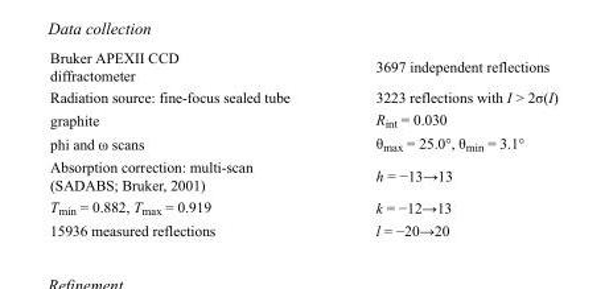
<table><tbody><tr><td>Bruker APEXII CCD diffractometer</td><td>3697 independent reflections</td></tr><tr><td>Radiation source: fine-focus sealed tube</td><td>3223 reflections with I &gt; 2σ(I)</td></tr><tr><td>graphite</td><td>R<sub>int</sub> = 0.030</td></tr><tr><td>phi and ω scans</td><td>θ<sub>max</sub> = 25.0°, θ<sub>min</sub> = 3.1°</td></tr><tr><td>Absorption correction: multi-scan (SADABS; Bruker, 2001)</td><td>h = −13→13</td></tr><tr><td>T<sub>min</sub> = 0.882, T<sub>max</sub> = 0.919</td><td>k = −12→13</td></tr><tr><td>15936 measured reflections</td><td>l = −20→20</td></tr></tbody></table>